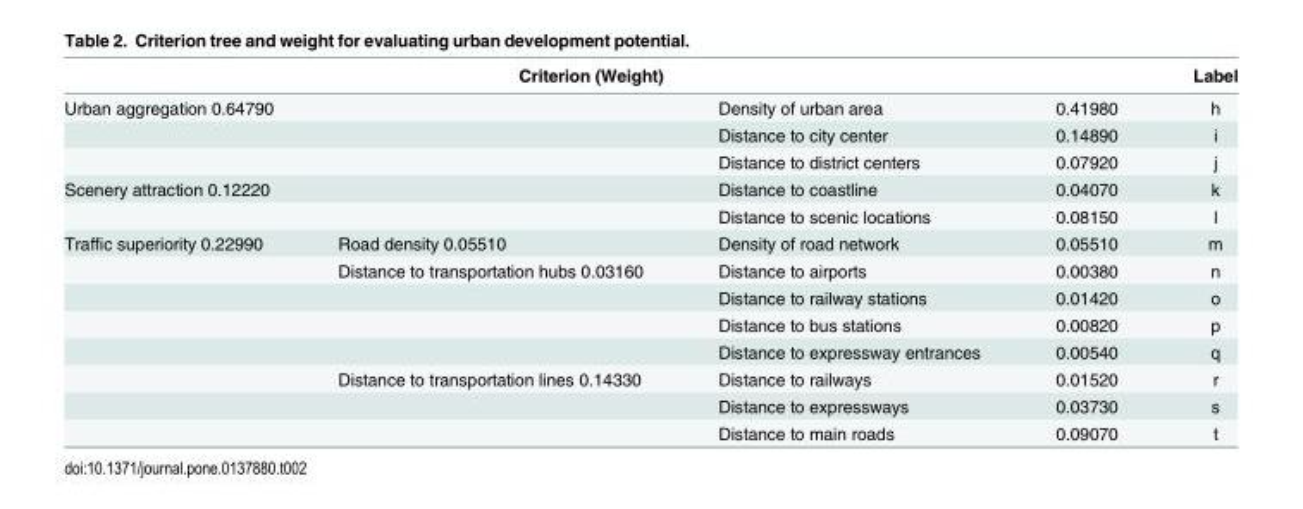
<table><thead><tr><td colspan="4">Criterion (Weight)</td><td>Label</td></tr></thead><tbody><tr><td rowspan="3" colspan="2">Urban aggregation 0.64790</td><td>Density of urban area</td><td>0.41980</td><td>h</td></tr><tr><td>Distance to city center</td><td>0.14890</td><td>i</td></tr><tr><td>Distance to district centers</td><td>0.07920</td><td>j</td></tr><tr><td rowspan="2" colspan="2">Scenery attraction 0.12220</td><td>Distance to coastline</td><td>0.04070</td><td>k</td></tr><tr><td>Distance to scenic locations</td><td>0.08150</td><td>l</td></tr><tr><td rowspan="8">Traffic superiority 0.22990</td><td>Road density 0.05510</td><td>Density of road network</td><td>0.05510</td><td>m</td></tr><tr><td>Distance to transportation hubs 0.03160</td><td>Distance to airports</td><td>0.00380</td><td>n</td></tr><tr><td></td><td>Distance to railway stations</td><td>0.01420</td><td>o</td></tr><tr><td></td><td>Distance to bus stations</td><td>0.00820</td><td>p</td></tr><tr><td></td><td>Distance to expressway entrances</td><td>0.00540</td><td>q</td></tr><tr><td>Distance to transportation lines 0.14330</td><td>Distance to railways</td><td>0.01520</td><td>r</td></tr><tr><td></td><td>Distance to expressways</td><td>0.03730</td><td>s</td></tr><tr><td></td><td>Distance to main roads</td><td>0.09070</td><td>t</td></tr></tbody></table>